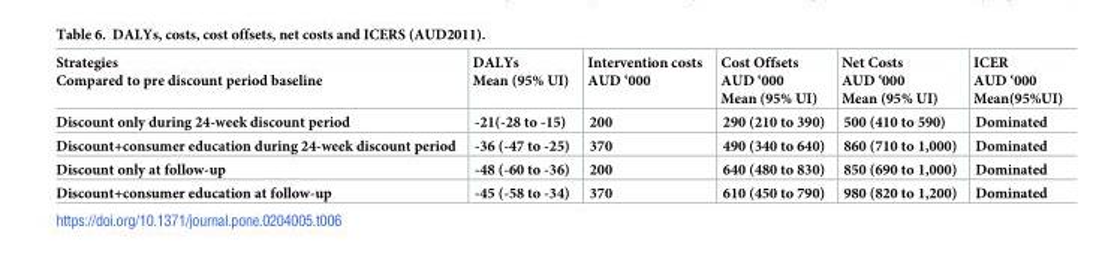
<table><thead><tr><td>Strategies Compared to pre discount period baseline</td><td>DALYs Mean (95% UI)</td><td>Intervention costs AUD ‘000</td><td>Cost Offsets AUD ‘000 Mean (95% UI)</td><td>Net Costs AUD ‘000 Mean (95% UI)</td><td>ICER AUD ‘000 Mean(95%UI)</td></tr></thead><tbody><tr><td>Discount only during 24-week discount period</td><td>-21(-28 to -15)</td><td>200</td><td>290 (210 to 390)</td><td>500 (410 to 590)</td><td>Dominated</td></tr><tr><td>Discount+consumer education during 24-week discount period</td><td>-36 (-47 to -25)</td><td>370</td><td>490 (340 to 640)</td><td>860 (710 to 1,000)</td><td>Dominated</td></tr><tr><td>Discount only at follow-up</td><td>-48 (-60 to -36)</td><td>200</td><td>640 (480 to 830)</td><td>850 (690 to 1,000)</td><td>Dominated</td></tr><tr><td>Discount+consumer education at follow-up</td><td>-45 (-58 to -34)</td><td>370</td><td>610 (450 to 790)</td><td>980 (820 to 1,200)</td><td>Dominated</td></tr></tbody></table>